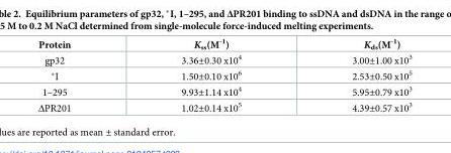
<table><thead><tr><td>Protein</td><td>K<sub>ss</sub>(M<sup>-1</sup>)</td><td>K<sub>ds</sub>(M<sup>-1</sup>)</td></tr></thead><tbody><tr><td>gp32</td><td>3.36±0.30 x10<sup>4</sup></td><td>3.00±1.00 x10<sup>3</sup></td></tr><tr><td>*I</td><td>1.50±0.10 x10<sup>6</sup></td><td>2.53±0.50 x10<sup>5</sup></td></tr><tr><td>1–295</td><td>9.93±1.14 x10<sup>4</sup></td><td>5.95±0.79 x10<sup>3</sup></td></tr><tr><td>ΔPR201</td><td>1.02±0.14 x10<sup>5</sup></td><td>4.39±0.57 x10<sup>3</sup></td></tr></tbody></table>